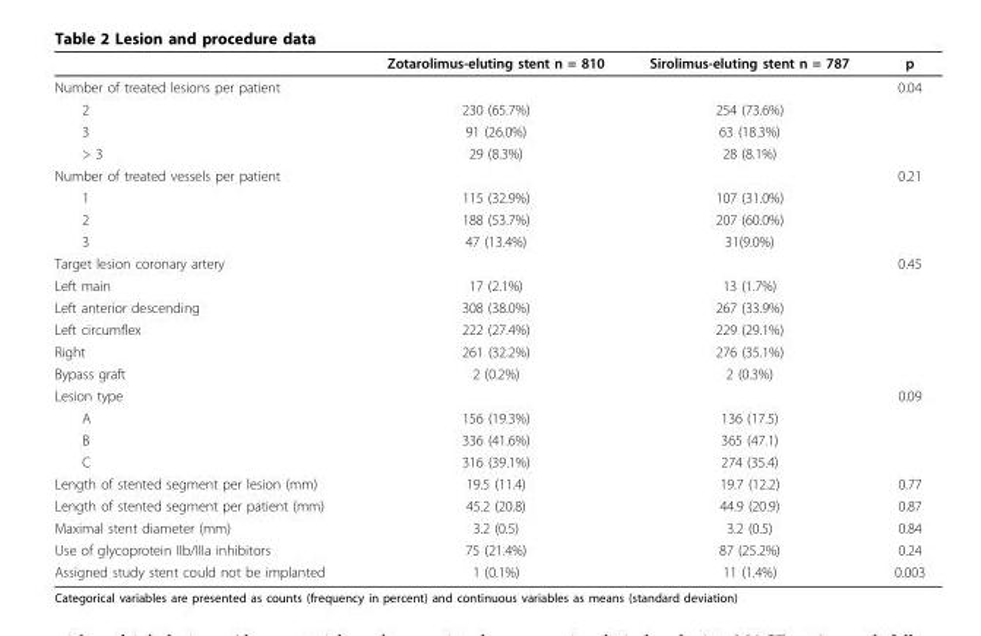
<table><thead><tr><td></td><td>Zotarolimus-eluting stent n = 810</td><td>Sirolimus-eluting stent n = 787</td><td>p</td></tr></thead><tbody><tr><td>Number of treated lesions per patient</td><td></td><td></td><td>0.04</td></tr><tr><td>2</td><td>230 (65.7%)</td><td>254 (73.6%)</td><td></td></tr><tr><td>3</td><td>91 (26.0%)</td><td>63 (18.3%)</td><td></td></tr><tr><td>&gt; 3</td><td>29 (8.3%)</td><td>28 (8.1%)</td><td></td></tr><tr><td>Number of treated vessels per patient</td><td></td><td></td><td>0.21</td></tr><tr><td>1</td><td>115 (32.9%)</td><td>107 (31.0%)</td><td></td></tr><tr><td>2</td><td>188 (53.7%)</td><td>207 (60.0%)</td><td></td></tr><tr><td>3</td><td>47 (13.4%)</td><td>31(9.0%)</td><td></td></tr><tr><td>Target lesion coronary artery</td><td></td><td></td><td>0.45</td></tr><tr><td>Left main</td><td>17 (2.1%)</td><td>13 (1.7%)</td><td></td></tr><tr><td>Left anterior descending</td><td>308 (38.0%)</td><td>267 (33.9%)</td><td></td></tr><tr><td>Left circumflex</td><td>222 (27.4%)</td><td>229 (29.1%)</td><td></td></tr><tr><td>Right</td><td>261 (32.2%)</td><td>276 (35.1%)</td><td></td></tr><tr><td>Bypass graft</td><td>2 (0.2%)</td><td>2 (0.3%)</td><td></td></tr><tr><td>Lesion type</td><td></td><td></td><td>0.09</td></tr><tr><td>A</td><td>156 (19.3%)</td><td>136 (17.5)</td><td></td></tr><tr><td>B</td><td>336 (41.6%)</td><td>365 (47.1)</td><td></td></tr><tr><td>C</td><td>316 (39.1%)</td><td>274 (35.4)</td><td></td></tr><tr><td>Length of stented segment per lesion (mm)</td><td>19.5 (11.4)</td><td>19.7 (12.2)</td><td>0.77</td></tr><tr><td>Length of stented segment per patient (mm)</td><td>45.2 (20.8)</td><td>44.9 (20.9)</td><td>0.87</td></tr><tr><td>Maximal stent diameter (mm)</td><td>3.2 (0.5)</td><td>3.2 (0.5)</td><td>0.84</td></tr><tr><td>Use of glycoprotein IIb/IIIa inhibitors</td><td>75 (21.4%)</td><td>87 (25.2%)</td><td>0.24</td></tr><tr><td>Assigned study stent could not be implanted</td><td>1 (0.1%)</td><td>11 (1.4%)</td><td>0.003</td></tr></tbody></table>